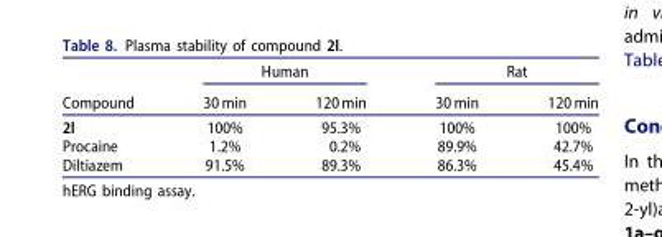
<table><thead><tr><td rowspan="2">Compound</td><td colspan="2">Human</td><td colspan="2">Rat</td></tr><tr><td>30 min</td><td>120 min</td><td>30 min</td><td>120 min</td></tr></thead><tbody><tr><td>2l</td><td>100%</td><td>95.3%</td><td>100%</td><td>100%</td></tr><tr><td>Procaine</td><td>1.2%</td><td>0.2%</td><td>89.9%</td><td>42.7%</td></tr><tr><td>Diltiazem</td><td>91.5%</td><td>89.3%</td><td>86.3%</td><td>45.4%</td></tr></tbody></table>